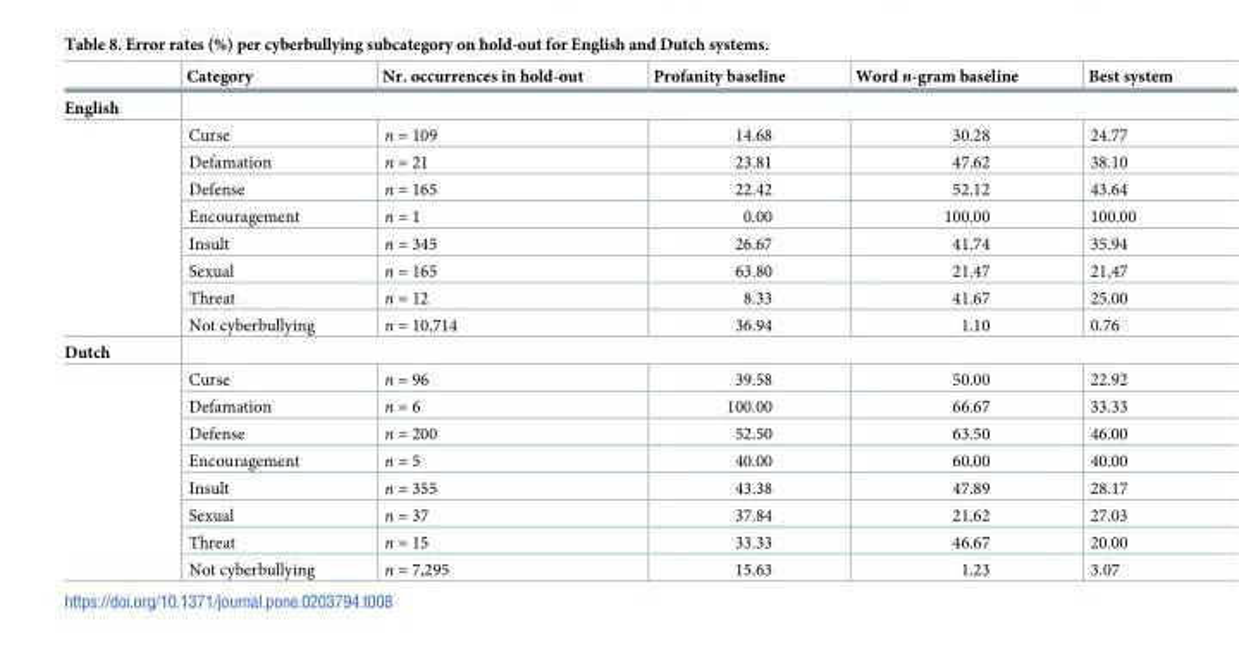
<table><thead><tr><td></td><td>Category</td><td>Nr. occurrences in hold-out</td><td>Profanity baseline</td><td>Word n-gram baseline</td><td>Best system</td></tr></thead><tbody><tr><td colspan="6">English</td></tr><tr><td rowspan="8"></td><td>Curse</td><td>n = 109</td><td>14.68</td><td>30.28</td><td>24.77</td></tr><tr><td>Defamation</td><td>n = 21</td><td>23.81</td><td>47.62</td><td>38.10</td></tr><tr><td>Defense</td><td>n = 165</td><td>22.42</td><td>52.12</td><td>43.64</td></tr><tr><td>Encouragement</td><td>n = 1</td><td>0.00</td><td>100.00</td><td>100.00</td></tr><tr><td>Insult</td><td>n = 345</td><td>26.67</td><td>41.74</td><td>35.94</td></tr><tr><td>Sexual</td><td>n = 165</td><td>63.80</td><td>21.47</td><td>21,47</td></tr><tr><td>Threat</td><td>n = 12</td><td>8.33</td><td>41.67</td><td>25.00</td></tr><tr><td>Not cyberbullying</td><td>n = 10,714</td><td>36.94</td><td>1.10</td><td>0.76</td></tr><tr><td colspan="6">Dutch</td></tr><tr><td rowspan="8"></td><td>Curse</td><td>n = 96</td><td>39.58</td><td>50.00</td><td>22.92</td></tr><tr><td>Defamation</td><td>n = 6</td><td>100.00</td><td>66.67</td><td>33.33</td></tr><tr><td>Defense</td><td>n = 200</td><td>52.50</td><td>63.50</td><td>46.00</td></tr><tr><td>Encouragement</td><td>n = 5</td><td>40.00</td><td>60.00</td><td>40.00</td></tr><tr><td>Insult</td><td>n = 355</td><td>43.38</td><td>47.89</td><td>28.17</td></tr><tr><td>Sexual</td><td>n = 37</td><td>37.84</td><td>21.62</td><td>27.03</td></tr><tr><td>Threat</td><td>n = 15</td><td>33.33</td><td>46.67</td><td>20.00</td></tr><tr><td>Not cyberbullying</td><td>n = 7,295</td><td>15.63</td><td>1.23</td><td>3.07</td></tr></tbody></table>